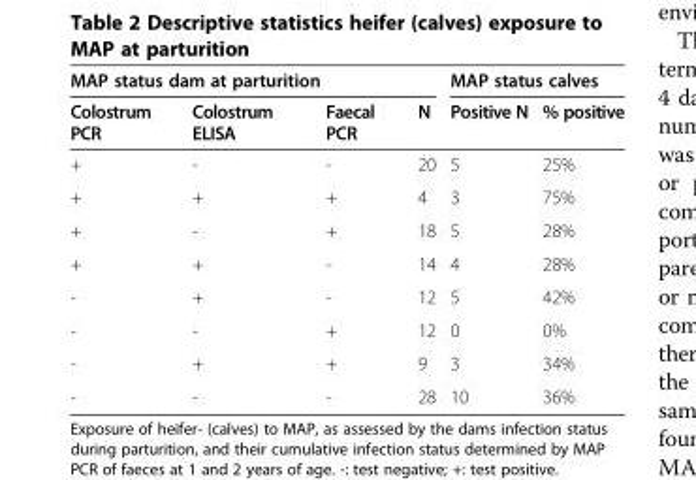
<table><thead><tr><td colspan="4">MAP status dam at parturition</td><td colspan="2">MAP status calves</td></tr><tr><td>Colostrum PCR</td><td>Colostrum ELISA</td><td>Faecal PCR</td><td>N</td><td>Positive N</td><td>% positive</td></tr></thead><tbody><tr><td>+</td><td>-</td><td>-</td><td>20</td><td>5</td><td>25%</td></tr><tr><td>+</td><td>+</td><td>+</td><td>4</td><td>3</td><td>75%</td></tr><tr><td>+</td><td>-</td><td>+</td><td>18</td><td>5</td><td>28%</td></tr><tr><td>+</td><td>+</td><td>-</td><td>14</td><td>4</td><td>28%</td></tr><tr><td>-</td><td>+</td><td>-</td><td>12</td><td>5</td><td>42%</td></tr><tr><td>-</td><td>-</td><td>+</td><td>12</td><td>0</td><td>0%</td></tr><tr><td>-</td><td>+</td><td>+</td><td>9</td><td>3</td><td>34%</td></tr><tr><td>-</td><td>-</td><td>-</td><td>28</td><td>10</td><td>36%</td></tr></tbody></table>